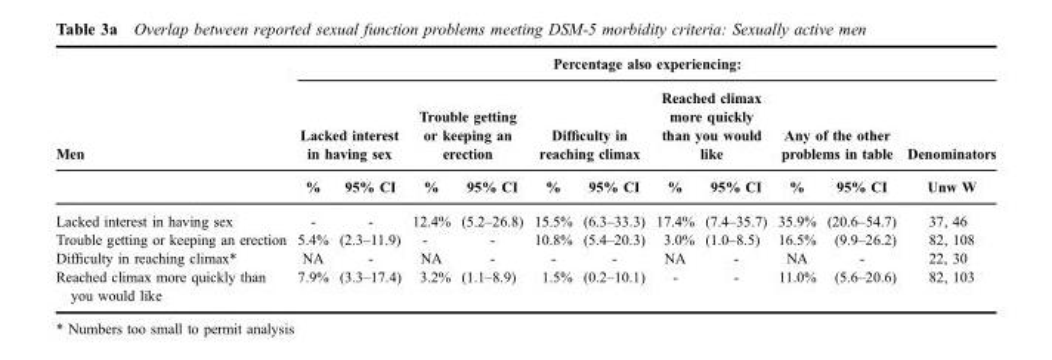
<table><thead><tr><td rowspan="3">Men</td><td colspan="11">Percentage also experiencing:</td></tr><tr><td colspan="2">Lacked interest in having sex</td><td colspan="2">Trouble getting or keeping an erection</td><td colspan="2">Difficulty in reaching climax</td><td colspan="2">Reached climax more quickly than you would like</td><td colspan="2">Any of the other problems in table</td><td rowspan="2">Denominators Unw W</td></tr><tr><td>%</td><td>95% CI</td><td>%</td><td>95% CI</td><td>%</td><td>95% CI</td><td>%</td><td>95% CI</td><td>%</td><td>95% CI</td></tr></thead><tbody><tr><td>Lacked interest in having sex</td><td>-</td><td>-</td><td>12.4%</td><td>(5.2–26.8)</td><td>15.5%</td><td>(6.3–33.3)</td><td>17.4%</td><td>(7.4–35.7)</td><td>35.9%</td><td>(20.6–54.7)</td><td>37, 46</td></tr><tr><td>Trouble getting or keeping an erection</td><td>5.4%</td><td>(2.3–11.9)</td><td>-</td><td>-</td><td>10.8%</td><td>(5.4–20.3)</td><td>3.0%</td><td>(1.0–8.5)</td><td>16.5%</td><td>(9.9–26.2)</td><td>82, 108</td></tr><tr><td>Difficulty in reaching climax*</td><td>NA</td><td>-</td><td>NA</td><td>-</td><td>-</td><td>-</td><td>NA</td><td>-</td><td>NA</td><td>-</td><td>22, 30</td></tr><tr><td>Reached climax more quickly than you would like</td><td>7.9%</td><td>(3.3–17.4)</td><td>3.2%</td><td>(1.1–8.9)</td><td>1.5%</td><td>(0.2–10.1)</td><td>-</td><td>-</td><td>11.0%</td><td>(5.6–20.6)</td><td>82, 103</td></tr></tbody></table>